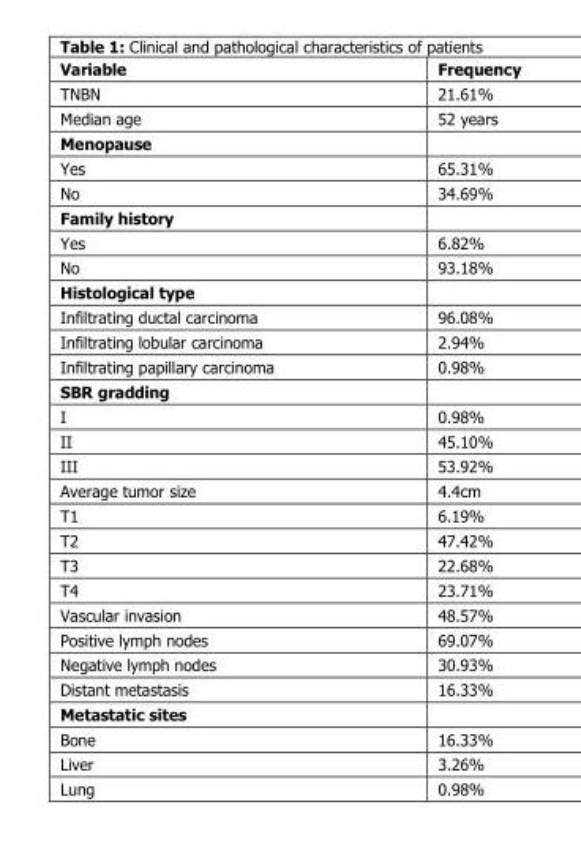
<table><thead><tr><td>Variable</td><td>Frequency</td></tr></thead><tbody><tr><td>TNBN</td><td>21.61%</td></tr><tr><td>Median age</td><td>52 years</td></tr><tr><td colspan="2">Menopause</td></tr><tr><td>Yes</td><td>65.31%</td></tr><tr><td>No</td><td>34.69%</td></tr><tr><td colspan="2">Family history</td></tr><tr><td>Yes</td><td>6.82%</td></tr><tr><td>No</td><td>93.18%</td></tr><tr><td colspan="2">Histological type</td></tr><tr><td>Infiltrating ductal carcinoma</td><td>96.08%</td></tr><tr><td>Infiltrating lobular carcinoma</td><td>2.94%</td></tr><tr><td>Infiltrating papillary carcinoma</td><td>0.98%</td></tr><tr><td colspan="2">SBR gradding</td></tr><tr><td>I</td><td>0.98%</td></tr><tr><td>II</td><td>45.10%</td></tr><tr><td>III</td><td>53.92%</td></tr><tr><td>Average tumor size</td><td>4.4cm</td></tr><tr><td>T1</td><td>6.19%</td></tr><tr><td>T2</td><td>47.42%</td></tr><tr><td>T3</td><td>22.68%</td></tr><tr><td>T4</td><td>23.71%</td></tr><tr><td>Vascular invasion</td><td>48.57%</td></tr><tr><td>Positive lymph nodes</td><td>69.07%</td></tr><tr><td>Negative lymph nodes</td><td>30.93%</td></tr><tr><td>Distant metastasis</td><td>16.33%</td></tr><tr><td colspan="2">Metastatic sites</td></tr><tr><td>Bone</td><td>16.33%</td></tr><tr><td>Liver</td><td>3.26%</td></tr><tr><td>Lung</td><td>0.98%</td></tr></tbody></table>